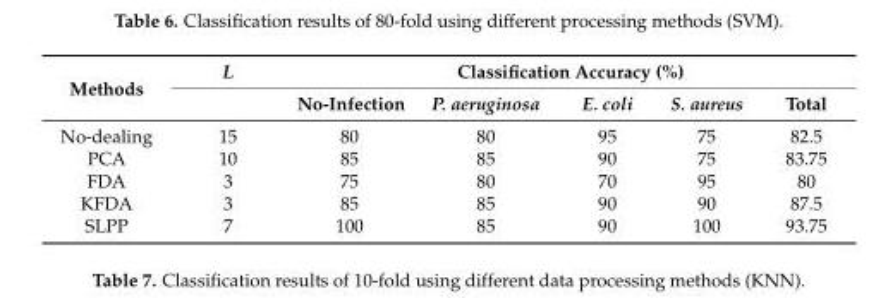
<table><thead><tr><td rowspan="2">Methods</td><td rowspan="2">L</td><td colspan="5">Classification Accuracy (%)</td></tr><tr><td>No-Infection</td><td>P. aeruginosa</td><td>E. coli</td><td>S. aureus</td><td>Total</td></tr></thead><tbody><tr><td>No-dealing</td><td>15</td><td>80</td><td>80</td><td>95</td><td>75</td><td>82.5</td></tr><tr><td>PCA</td><td>10</td><td>85</td><td>85</td><td>90</td><td>75</td><td>83.75</td></tr><tr><td>FDA</td><td>3</td><td>75</td><td>80</td><td>70</td><td>95</td><td>80</td></tr><tr><td>KFDA</td><td>3</td><td>85</td><td>85</td><td>90</td><td>90</td><td>87.5</td></tr><tr><td>SLPP</td><td>7</td><td>100</td><td>85</td><td>90</td><td>100</td><td>93.75</td></tr></tbody></table>